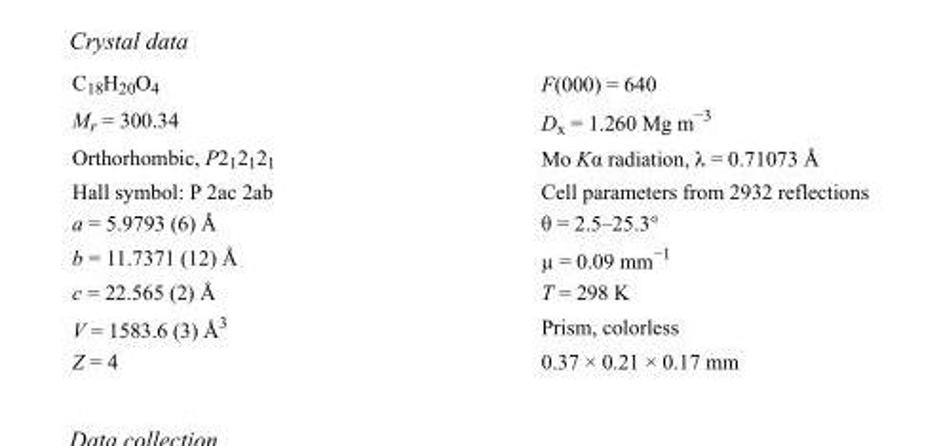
<table><tbody><tr><td>C<sub>18</sub>H<sub>20</sub>O<sub>4</sub></td><td>F(000) = 640</td></tr><tr><td>M<sub>r</sub> = 300.34</td><td>D<sub>x</sub> = 1.260 Mg m<sup>−3</sup></td></tr><tr><td>Orthorhombic, P2<sub>1</sub>2<sub>1</sub>2<sub>1</sub></td><td>Mo Kα radiation, λ = 0.71073 Å</td></tr><tr><td>Hall symbol: P 2ac 2ab</td><td>Cell parameters from 2932 reflections</td></tr><tr><td>a = 5.9793 (6) Å</td><td>θ = 2.5–25.3°</td></tr><tr><td>b = 11.7371 (12) Å</td><td>µ = 0.09 mm<sup>−1</sup></td></tr><tr><td>c = 22.565 (2) Å</td><td>T = 298 K</td></tr><tr><td>V = 1583.6 (3) Å<sup>3</sup></td><td>Prism, colorless</td></tr><tr><td>Z = 4</td><td>0.37 × 0.21 × 0.17 mm</td></tr></tbody></table>